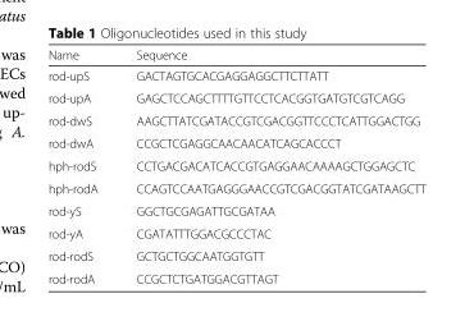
<table><thead><tr><td>Name</td><td>Sequence</td></tr></thead><tbody><tr><td>rod-upS</td><td>GACTAGTGCACGAGGAGGCTTCTTATT</td></tr><tr><td>rod-upA</td><td>GAGCTCCAGCTTTTGTTCCTCACGGTGATGTCGTCAGG</td></tr><tr><td>rod-dwS</td><td>AAGCTTATCGATACCGTCGACGGTTCCCTCATTGGACTGG</td></tr><tr><td>rod-dwA</td><td>CCGCTCGAGGCAACAACATCAGCACCCT</td></tr><tr><td>hph-rodS</td><td>CCTGACGACATCACCGTGAGGAACAAAAGCTGGAGCTC</td></tr><tr><td>hph-rodA</td><td>CCAGTCCAATGAGGGAACCGTCGACGGTATCGATAAGCTT</td></tr><tr><td>rod-yS</td><td>GGCTGCGAGATTGCGATAA</td></tr><tr><td>rod-yA</td><td>CGATATTTGGACGCCCTAC</td></tr><tr><td>rod-rodS</td><td>GCTGCTGGCAATGGTGTT</td></tr><tr><td>rod-rodA</td><td>CCGCTCTGATGGACGTTAGT</td></tr></tbody></table>